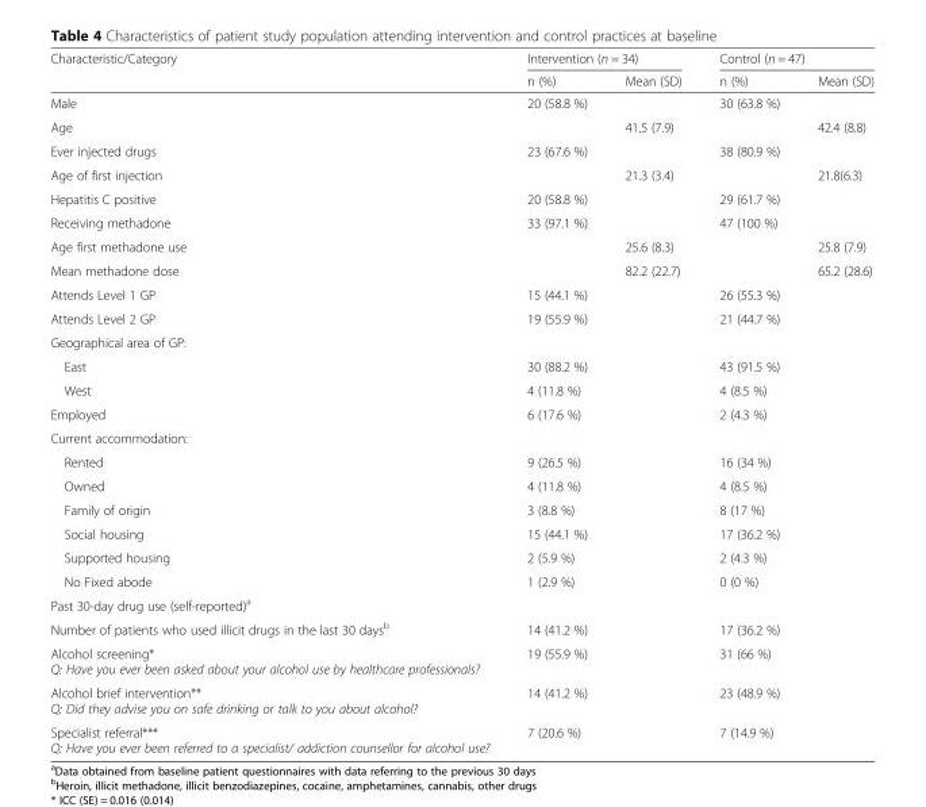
<table><thead><tr><td rowspan="2">Characteristic/Category</td><td colspan="2">Intervention (n = 34)</td><td colspan="2">Control (n = 47)</td></tr><tr><td>n (%)</td><td>Mean (SD)</td><td>n (%)</td><td>Mean (SD)</td></tr></thead><tbody><tr><td>Male</td><td>20 (58.8 %)</td><td></td><td>30 (63.8 %)</td><td></td></tr><tr><td>Age</td><td></td><td>41.5 (7.9)</td><td></td><td>42.4 (8.8)</td></tr><tr><td>Ever injected drugs</td><td>23 (67.6 %)</td><td></td><td>38 (80.9 %)</td><td></td></tr><tr><td>Age of first injection</td><td></td><td>21.3 (3.4)</td><td></td><td>21.8(6.3)</td></tr><tr><td>Hepatitis C positive</td><td>20 (58.8 %)</td><td></td><td>29 (61.7 %)</td><td></td></tr><tr><td>Receiving methadone</td><td>33 (97.1 %)</td><td></td><td>47 (100 %)</td><td></td></tr><tr><td>Age first methadone use</td><td></td><td>25.6 (8.3)</td><td></td><td>25.8 (7.9)</td></tr><tr><td>Mean methadone dose</td><td></td><td>82.2 (22.7)</td><td></td><td>65.2 (28.6)</td></tr><tr><td>Attends Level 1 GP</td><td>15 (44.1 %)</td><td></td><td>26 (55.3 %)</td><td></td></tr><tr><td>Attends Level 2 GP</td><td>19 (55.9 %)</td><td></td><td>21 (44.7 %)</td><td></td></tr><tr><td colspan="5">Geographical area of GP:</td></tr><tr><td>East</td><td>30 (88.2 %)</td><td></td><td>43 (91.5 %)</td><td></td></tr><tr><td>West</td><td>4 (11.8 %)</td><td></td><td>4 (8.5 %)</td><td></td></tr><tr><td>Employed</td><td>6 (17.6 %)</td><td></td><td>2 (4.3 %)</td><td></td></tr><tr><td colspan="5">Current accommodation:</td></tr><tr><td>Rented</td><td>9 (26.5 %)</td><td></td><td>16 (34 %)</td><td></td></tr><tr><td>Owned</td><td>4 (11.8 %)</td><td></td><td>4 (8.5 %)</td><td></td></tr><tr><td>Family of origin</td><td>3 (8.8 %)</td><td></td><td>8 (17 %)</td><td></td></tr><tr><td>Social housing</td><td>15 (44.1 %)</td><td></td><td>17 (36.2 %)</td><td></td></tr><tr><td>Supported housing</td><td>2 (5.9 %)</td><td></td><td>2 (4.3 %)</td><td></td></tr><tr><td>No Fixed abode</td><td>1 (2.9 %)</td><td></td><td>0 (0 %)</td><td></td></tr><tr><td colspan="5">Past 30-day drug use (self-reported)<sup>a</sup></td></tr><tr><td>Number of patients who used illicit drugs in the last 30 days<sup>b</sup></td><td>14 (41.2 %)</td><td></td><td>17 (36.2 %)</td><td></td></tr><tr><td>Alcohol screening* Q: Have you ever been asked about your alcohol use by healthcare professionals?</td><td>19 (55.9 %)</td><td></td><td>31 (66 %)</td><td></td></tr><tr><td>Alcohol brief intervention** Q: Did they advise you on safe drinking or talk to you about alcohol?</td><td>14 (41.2 %)</td><td></td><td>23 (48.9 %)</td><td></td></tr><tr><td>Specialist referral*** Q: Have you ever been referred to a specialist/ addiction counsellor for alcohol use?</td><td>7 (20.6 %)</td><td></td><td>7 (14.9 %)</td><td></td></tr></tbody></table>